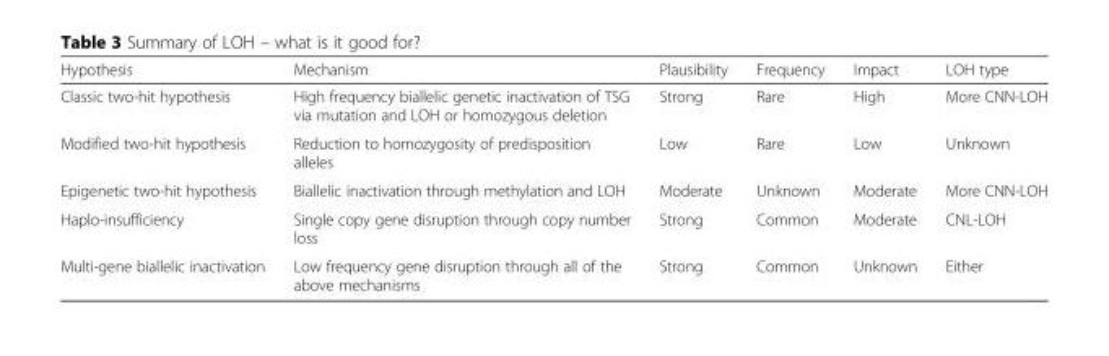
<table><thead><tr><td>Hypothesis</td><td>Mechanism</td><td>Plausibility</td><td>Frequency</td><td>Impact</td><td>LOH type</td></tr></thead><tbody><tr><td>Classic two-hit hypothesis</td><td>High frequency biallelic genetic inactivation of TSG via mutation and LOH or homozygous deletion</td><td>Strong</td><td>Rare</td><td>High</td><td>More CNN-LOH</td></tr><tr><td>Modified two-hit hypothesis</td><td>Reduction to homozygosity of predisposition alleles</td><td>Low</td><td>Rare</td><td>Low</td><td>Unknown</td></tr><tr><td>Epigenetic two-hit hypothesis</td><td>Biallelic inactivation through methylation and LOH</td><td>Moderate</td><td>Unknown</td><td>Moderate</td><td>More CNN-LOH</td></tr><tr><td>Haplo-insufficiency</td><td>Single copy gene disruption through copy number loss</td><td>Strong</td><td>Common</td><td>Moderate</td><td>CNL-LOH</td></tr><tr><td>Multi-gene biallelic inactivation</td><td>Low frequency gene disruption through all of the above mechanisms</td><td>Strong</td><td>Common</td><td>Unknown</td><td>Either</td></tr></tbody></table>